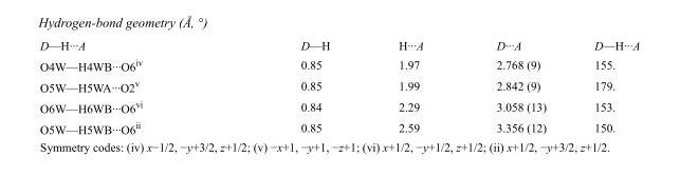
<table><tbody><tr><td>D—H···A</td><td>D—H</td><td>H···A</td><td>D···A</td><td>D—H···A</td></tr><tr><td>O4W—H4WB···O6<sup>iv</sup></td><td>0.85</td><td>1.97</td><td>2.768 (9)</td><td>155.</td></tr><tr><td>O5W—H5WA···O2<sup>v</sup></td><td>0.85</td><td>1.99</td><td>2.842 (9)</td><td>179.</td></tr><tr><td>O6W—H6WB···O6<sup>vi</sup></td><td>0.84</td><td>2.29</td><td>3.058 (13)</td><td>153.</td></tr><tr><td>O5W—H5WB···O6<sup>ii</sup></td><td>0.85</td><td>2.59</td><td>3.356 (12)</td><td>150.</td></tr></tbody></table>